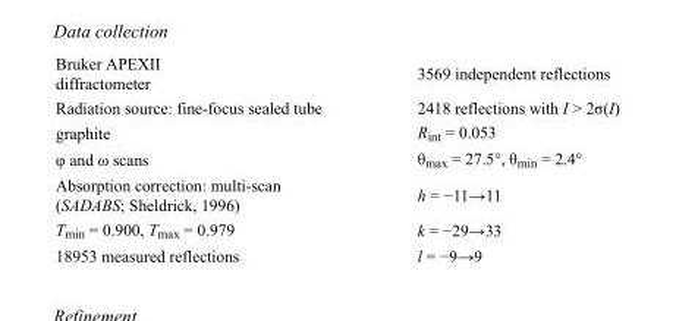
<table><tbody><tr><td>Bruker APEXII diffractometer</td><td>3569 independent reflections</td></tr><tr><td>Radiation source: fine-focus sealed tube</td><td>2418 reflections with I &gt; 2σ(I)</td></tr><tr><td>graphite</td><td>R<sub>int</sub> = 0.053</td></tr><tr><td>φ and ω scans</td><td>θ<sub>max</sub> = 27.5°, θ<sub>min</sub> = 2.4°</td></tr><tr><td>Absorption correction: multi-scan (SADABS; Sheldrick, 1996)</td><td>h = −11→11</td></tr><tr><td>T<sub>min</sub> = 0.900, T<sub>max</sub> = 0.979</td><td>k = −29→33</td></tr><tr><td>18953 measured reflections</td><td>l = −9→9</td></tr></tbody></table>